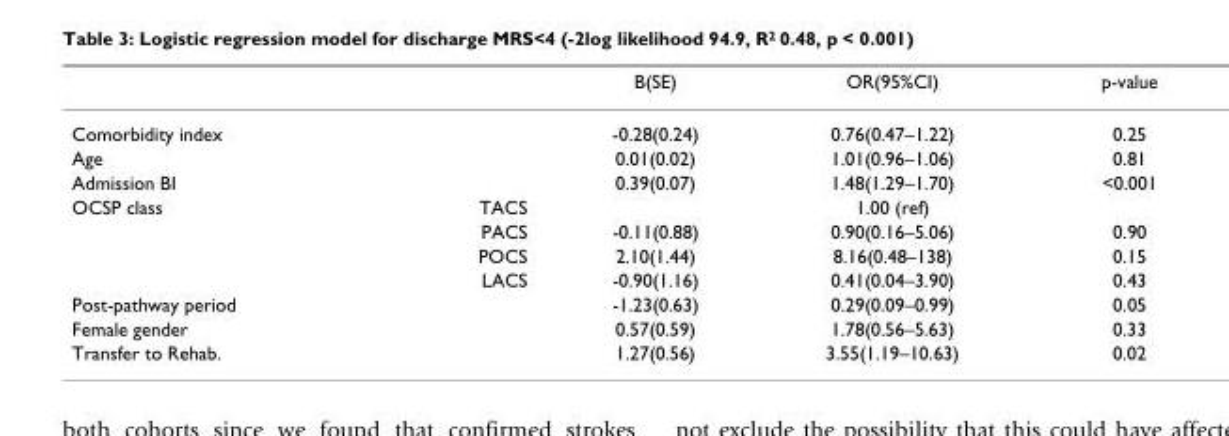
<table><thead><tr><td></td><td></td><td>B(SE)</td><td>OR(95%CI)</td><td>p-value</td></tr></thead><tbody><tr><td colspan="2">Comorbidity index</td><td>-0.28(0.24)</td><td>0.76(0.47–1.22)</td><td>0.25</td></tr><tr><td colspan="2">Age</td><td>0.01(0.02)</td><td>1.01(0.96–1.06)</td><td>0.81</td></tr><tr><td colspan="2">Admission BI</td><td>0.39(0.07)</td><td>1.48(1.29–1.70)</td><td>&lt;0.001</td></tr><tr><td rowspan="4">OCSP class</td><td>TACS</td><td></td><td>1.00 (ref)</td><td></td></tr><tr><td>PACS</td><td>-0.11(0.88)</td><td>0.90(0.16–5.06)</td><td>0.90</td></tr><tr><td>POCS</td><td>2.10(1.44)</td><td>8.16(0.48–138)</td><td>0.15</td></tr><tr><td>LACS</td><td>-0.90(1.16)</td><td>0.41(0.04–3.90)</td><td>0.43</td></tr><tr><td colspan="2">Post-pathway period</td><td>-1.23(0.63)</td><td>0.29(0.09–0.99)</td><td>0.05</td></tr><tr><td colspan="2">Female gender</td><td>0.57(0.59)</td><td>1.78(0.56–5.63)</td><td>0.33</td></tr><tr><td colspan="2">Transfer to Rehab.</td><td>1.27(0.56)</td><td>3.55(1.19–10.63)</td><td>0.02</td></tr></tbody></table>